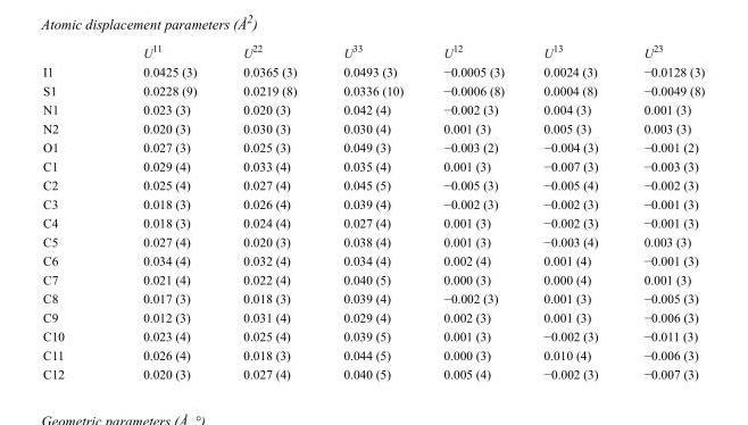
<table><thead><tr><td></td><td>U<sup>11</sup></td><td>U<sup>22</sup></td><td>U<sup>33</sup></td><td>U<sup>12</sup></td><td>U<sup>13</sup></td><td>U<sup>23</sup></td></tr></thead><tbody><tr><td>I1</td><td>0.0425 (3)</td><td>0.0365 (3)</td><td>0.0493 (3)</td><td>−0.0005 (3)</td><td>0.0024 (3)</td><td>−0.0128 (3)</td></tr><tr><td>S1</td><td>0.0228 (9)</td><td>0.0219 (8)</td><td>0.0336 (10)</td><td>−0.0006 (8)</td><td>0.0004 (8)</td><td>−0.0049 (8)</td></tr><tr><td>N1</td><td>0.023 (3)</td><td>0.020 (3)</td><td>0.042 (4)</td><td>−0.002 (3)</td><td>0.004 (3)</td><td>0.001 (3)</td></tr><tr><td>N2</td><td>0.020 (3)</td><td>0.030 (3)</td><td>0.030 (4)</td><td>0.001 (3)</td><td>0.005 (3)</td><td>0.003 (3)</td></tr><tr><td>O1</td><td>0.027 (3)</td><td>0.025 (3)</td><td>0.049 (3)</td><td>−0.003 (2)</td><td>−0.004 (3)</td><td>−0.001 (2)</td></tr><tr><td>C1</td><td>0.029 (4)</td><td>0.033 (4)</td><td>0.035 (4)</td><td>0.001 (3)</td><td>−0.007 (3)</td><td>−0.003 (3)</td></tr><tr><td>C2</td><td>0.025 (4)</td><td>0.027 (4)</td><td>0.045 (5)</td><td>−0.005 (3)</td><td>−0.005 (4)</td><td>−0.002 (3)</td></tr><tr><td>C3</td><td>0.018 (3)</td><td>0.026 (4)</td><td>0.039 (4)</td><td>−0.002 (3)</td><td>−0.002 (3)</td><td>−0.001 (3)</td></tr><tr><td>C4</td><td>0.018 (3)</td><td>0.024 (4)</td><td>0.027 (4)</td><td>0.001 (3)</td><td>−0.002 (3)</td><td>−0.001 (3)</td></tr><tr><td>C5</td><td>0.027 (4)</td><td>0.020 (3)</td><td>0.038 (4)</td><td>0.001 (3)</td><td>−0.003 (4)</td><td>0.003 (3)</td></tr><tr><td>C6</td><td>0.034 (4)</td><td>0.032 (4)</td><td>0.034 (4)</td><td>0.002 (4)</td><td>0.001 (4)</td><td>−0.001 (3)</td></tr><tr><td>C7</td><td>0.021 (4)</td><td>0.022 (4)</td><td>0.040 (5)</td><td>0.000 (3)</td><td>0.000 (4)</td><td>0.001 (3)</td></tr><tr><td>C8</td><td>0.017 (3)</td><td>0.018 (3)</td><td>0.039 (4)</td><td>−0.002 (3)</td><td>0.001 (3)</td><td>−0.005 (3)</td></tr><tr><td>C9</td><td>0.012 (3)</td><td>0.031 (4)</td><td>0.029 (4)</td><td>0.002 (3)</td><td>0.001 (3)</td><td>−0.006 (3)</td></tr><tr><td>C10</td><td>0.023 (4)</td><td>0.025 (4)</td><td>0.039 (5)</td><td>0.001 (3)</td><td>−0.002 (3)</td><td>−0.011 (3)</td></tr><tr><td>C11</td><td>0.026 (4)</td><td>0.018 (3)</td><td>0.044 (5)</td><td>0.000 (3)</td><td>0.010 (4)</td><td>−0.006 (3)</td></tr><tr><td>C12</td><td>0.020 (3)</td><td>0.027 (4)</td><td>0.040 (5)</td><td>0.005 (4)</td><td>−0.002 (3)</td><td>−0.007 (3)</td></tr></tbody></table>